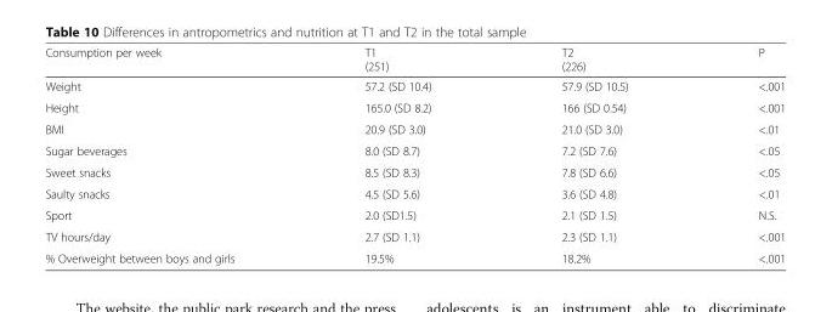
<table><thead><tr><td>Consumption per week</td><td>T1 (251)</td><td>T2 (226)</td><td>P</td></tr></thead><tbody><tr><td>Weight</td><td>57.2 (SD 10.4)</td><td>57.9 (SD 10.5)</td><td>&lt;.001</td></tr><tr><td>Height</td><td>165.0 (SD 8.2)</td><td>166 (SD 0.54)</td><td>&lt;.001</td></tr><tr><td>BMI</td><td>20.9 (SD 3.0)</td><td>21.0 (SD 3.0)</td><td>&lt;.01</td></tr><tr><td>Sugar beverages</td><td>8.0 (SD 8.7)</td><td>7.2 (SD 7.6)</td><td>&lt;.05</td></tr><tr><td>Sweet snacks</td><td>8.5 (SD 8.3)</td><td>7.8 (SD 6.6)</td><td>&lt;.05</td></tr><tr><td>Saulty snacks</td><td>4.5 (SD 5.6)</td><td>3.6 (SD 4.8)</td><td>&lt;.01</td></tr><tr><td>Sport</td><td>2.0 (SD1.5)</td><td>2.1 (SD 1.5)</td><td>N.S.</td></tr><tr><td>TV hours/day</td><td>2.7 (SD 1.1)</td><td>2.3 (SD 1.1)</td><td>&lt;.001</td></tr><tr><td>% Overweight between boys and girls</td><td>19.5%</td><td>18.2%</td><td>&lt;.001</td></tr></tbody></table>